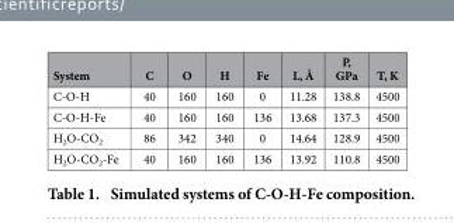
<table><thead><tr><td>System</td><td>C</td><td>O</td><td>H</td><td>Fe</td><td>L, Å</td><td>P, GPa</td><td>T, K</td></tr></thead><tbody><tr><td>C-O-H</td><td>40</td><td>160</td><td>160</td><td>0</td><td>11.28</td><td>138.8</td><td>4500</td></tr><tr><td>C-O-H-Fe</td><td>40</td><td>160</td><td>160</td><td>136</td><td>13.68</td><td>137.3</td><td>4500</td></tr><tr><td>H<sub>2</sub>O-CO<sub>2</sub></td><td>86</td><td>342</td><td>340</td><td>0</td><td>14.64</td><td>128.9</td><td>4500</td></tr><tr><td>H<sub>2</sub>O-CO<sub>2</sub>-Fe</td><td>40</td><td>160</td><td>160</td><td>136</td><td>13.92</td><td>110.8</td><td>4500</td></tr></tbody></table>